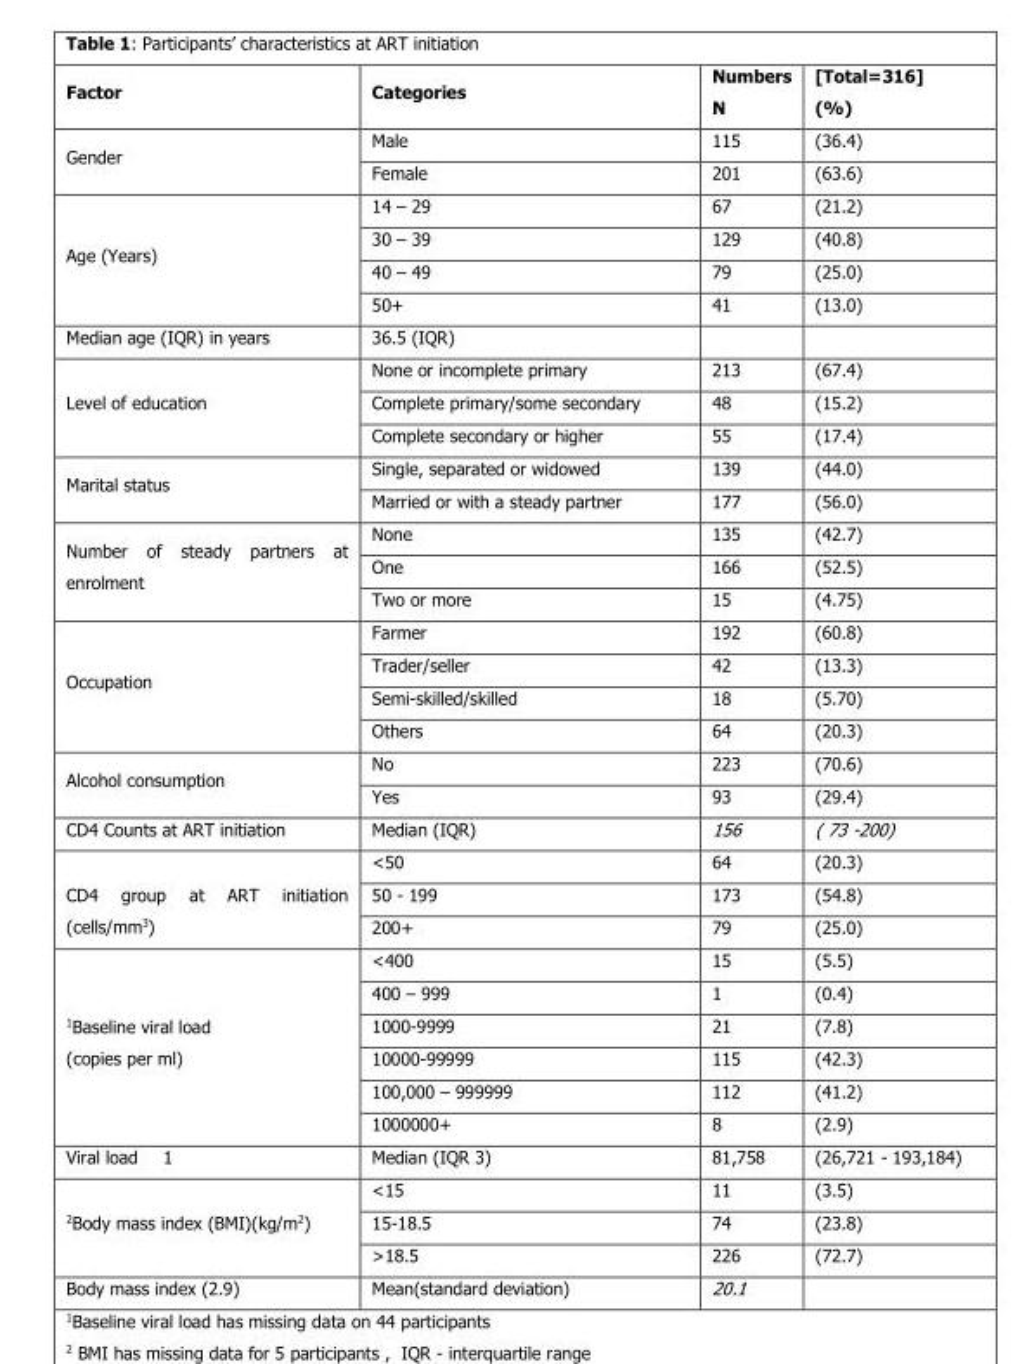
<table><thead><tr><td>Factor</td><td>Categories</td><td>Numbers N</td><td>[Total=316] (%)</td></tr></thead><tbody><tr><td rowspan="2">Gender</td><td>Male</td><td>115</td><td>(36.4)</td></tr><tr><td>Female</td><td>201</td><td>(63.6)</td></tr><tr><td rowspan="4">Age (Years)</td><td>14 – 29</td><td>67</td><td>(21.2)</td></tr><tr><td>30 – 39</td><td>129</td><td>(40.8)</td></tr><tr><td>40 – 49</td><td>79</td><td>(25.0)</td></tr><tr><td>50+</td><td>41</td><td>(13.0)</td></tr><tr><td>Median age (IQR) in years</td><td>36.5 (IQR)</td><td></td><td></td></tr><tr><td rowspan="3">Level of education</td><td>None or incomplete primary</td><td>213</td><td>(67.4)</td></tr><tr><td>Complete primary/some secondary</td><td>48</td><td>(15.2)</td></tr><tr><td>Complete secondary or higher</td><td>55</td><td>(17.4)</td></tr><tr><td rowspan="2">Marital status</td><td>Single, separated or widowed</td><td>139</td><td>(44.0)</td></tr><tr><td>Married or with a steady partner</td><td>177</td><td>(56.0)</td></tr><tr><td rowspan="3">Number of steady partners at enrolment</td><td>None</td><td>135</td><td>(42.7)</td></tr><tr><td>One</td><td>166</td><td>(52.5)</td></tr><tr><td>Two or more</td><td>15</td><td>(4.75)</td></tr><tr><td rowspan="4">Occupation</td><td>Farmer</td><td>192</td><td>(60.8)</td></tr><tr><td>Trader/seller</td><td>42</td><td>(13.3)</td></tr><tr><td>Semi-skilled/skilled</td><td>18</td><td>(5.70)</td></tr><tr><td>Others</td><td>64</td><td>(20.3)</td></tr><tr><td rowspan="2">Alcohol consumption</td><td>No</td><td>223</td><td>(70.6)</td></tr><tr><td>Yes</td><td>93</td><td>(29.4)</td></tr><tr><td>CD4 Counts at ART initiation</td><td>Median (IQR)</td><td>156</td><td>( 73 -200)</td></tr><tr><td rowspan="3">CD4 group at ART initiation (cells/mm<sup>3</sup>)</td><td>&lt;50</td><td>64</td><td>(20.3)</td></tr><tr><td>50 - 199</td><td>173</td><td>(54.8)</td></tr><tr><td>200+</td><td>79</td><td>(25.0)</td></tr><tr><td rowspan="6"><sup>1</sup>Baseline viral load (copies per ml)</td><td>&lt;400</td><td>15</td><td>(5.5)</td></tr><tr><td>400 – 999</td><td>1</td><td>(0.4)</td></tr><tr><td>1000-9999</td><td>21</td><td>(7.8)</td></tr><tr><td>10000-99999</td><td>115</td><td>(42.3)</td></tr><tr><td>100,000 – 999999</td><td>112</td><td>(41.2)</td></tr><tr><td>1000000+</td><td>8</td><td>(2.9)</td></tr><tr><td>Viral load 1</td><td>Median (IQR 3)</td><td>81,758</td><td>(26,721 - 193,184)</td></tr><tr><td rowspan="3"><sup>2</sup>Body mass index (BMI)(kg/m<sup>2</sup>)</td><td>&lt;15</td><td>11</td><td>(3.5)</td></tr><tr><td>15-18.5</td><td>74</td><td>(23.8)</td></tr><tr><td>&gt;18.5</td><td>226</td><td>(72.7)</td></tr><tr><td>Body mass index (2.9)</td><td>Mean(standard deviation)</td><td>20.1</td><td></td></tr></tbody></table>